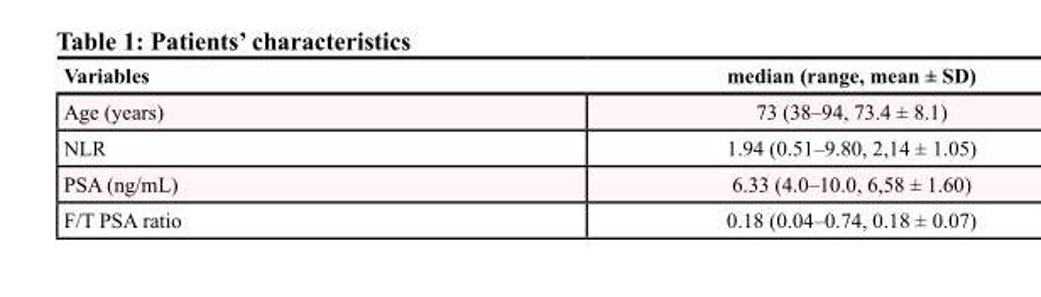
<table><thead><tr><td>Variables</td><td>median (range, mean ± SD)</td></tr></thead><tbody><tr><td>Age (years)</td><td>73 (38–94, 73.4 ± 8.1)</td></tr><tr><td>NLR</td><td>1.94 (0.51–9.80, 2,14 ± 1.05)</td></tr><tr><td>PSA (ng/mL)</td><td>6.33 (4.0–10.0, 6,58 ± 1.60)</td></tr><tr><td>F/T PSA ratio</td><td>0.18 (0.04–0.74, 0.18 ± 0.07)</td></tr></tbody></table>